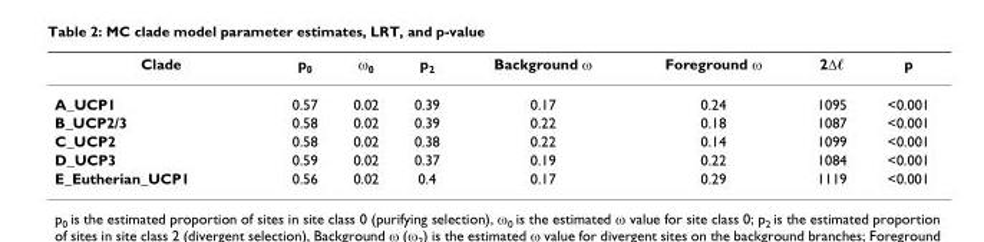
<table><thead><tr><td>Clade</td><td>p<sub>0</sub></td><td>ω<sub>0</sub></td><td>p<sub>2</sub></td><td>Background ω</td><td>Foreground ω</td><td>2Δℓ</td><td>p</td></tr></thead><tbody><tr><td>A_UCP1</td><td>0.57</td><td>0.02</td><td>0.39</td><td>0.17</td><td>0.24</td><td>1095</td><td>&lt;0.001</td></tr><tr><td>B_UCP2/3</td><td>0.58</td><td>0.02</td><td>0.39</td><td>0.22</td><td>0.18</td><td>1087</td><td>&lt;0.001</td></tr><tr><td>C_UCP2</td><td>0.58</td><td>0.02</td><td>0.38</td><td>0.22</td><td>0.14</td><td>1099</td><td>&lt;0.001</td></tr><tr><td>D_UCP3</td><td>0.59</td><td>0.02</td><td>0.37</td><td>0.19</td><td>0.22</td><td>1084</td><td>&lt;0.001</td></tr><tr><td>E_Eutherian_UCP1</td><td>0.56</td><td>0.02</td><td>0.4</td><td>0.17</td><td>0.29</td><td>1119</td><td>&lt;0.001</td></tr></tbody></table>